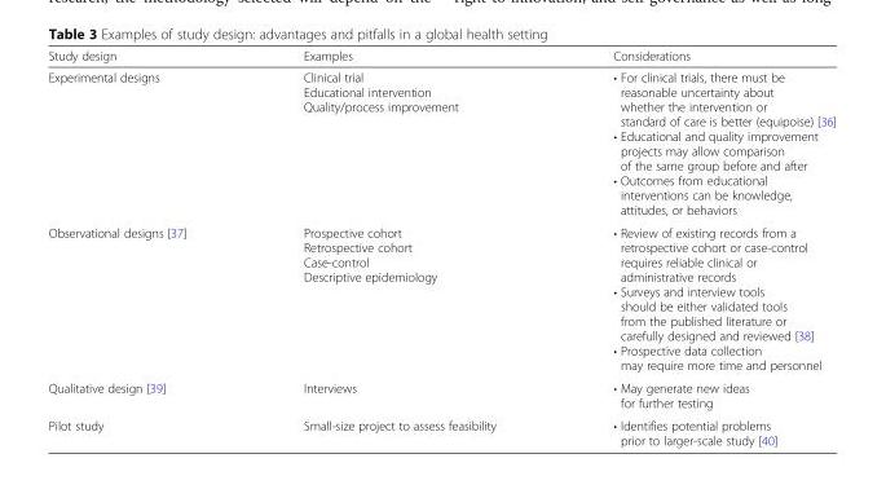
<table><thead><tr><td>Study design</td><td>Examples</td><td>Considerations</td></tr></thead><tbody><tr><td>Experimental designs</td><td>Clinical trial Educational intervention Quality/process improvement</td><td>• For clinical trials, there must be reasonable uncertainty about whether the intervention or standard of care is better (equipoise) [36] • Educational and quality improvement projects may allow comparison of the same group before and after • Outcomes from educational interventions can be knowledge, attitudes, or behaviors</td></tr><tr><td>Observational designs [37]</td><td>Prospective cohort Retrospective cohort Case-control Descriptive epidemiology</td><td>• Review of existing records from a retrospective cohort or case-control requires reliable clinical or administrative records • Surveys and interview tools should be either validated tools from the published literature or carefully designed and reviewed [38] • Prospective data collection may require more time and personnel</td></tr><tr><td>Qualitative design [39]</td><td>Interviews</td><td>• May generate new ideas for further testing</td></tr><tr><td>Pilot study</td><td>Small-size project to assess feasibility</td><td>• Identifies potential problems prior to larger-scale study [40]</td></tr></tbody></table>